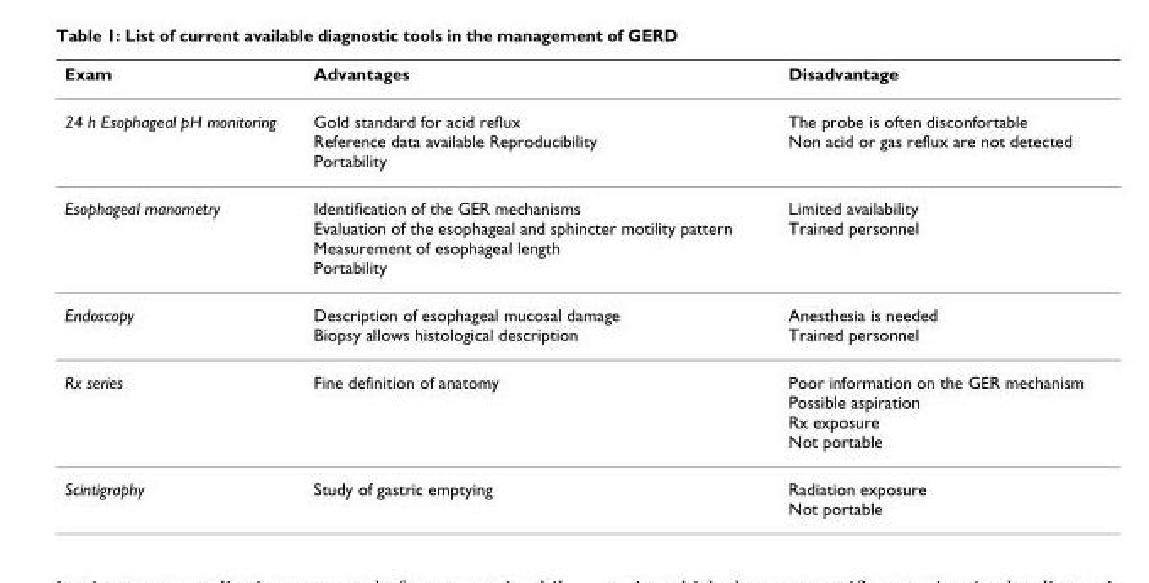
<table><thead><tr><td>Exam</td><td>Advantages</td><td>Disadvantage</td></tr></thead><tbody><tr><td>24 h Esophageal pH monitoring</td><td>Gold standard for acid reflux Reference data available Reproducibility Portability</td><td>The probe is often disconfortable Non acid or gas reflux are not detected</td></tr><tr><td>Esophageal manometry</td><td>Identification of the GER mechanisms Evaluation of the esophageal and sphincter motility pattern Measurement of esophageal length Portability</td><td>Limited availability Trained personnel</td></tr><tr><td>Endoscopy</td><td>Description of esophageal mucosal damage Biopsy allows histological description</td><td>Anesthesia is needed Trained personnel</td></tr><tr><td>Rx series</td><td>Fine definition of anatomy</td><td>Poor information on the GER mechanism Possible aspiration Rx exposure Not portable</td></tr><tr><td>Scintigraphy</td><td>Study of gastric emptying</td><td>Radiation exposure Not portable</td></tr></tbody></table>